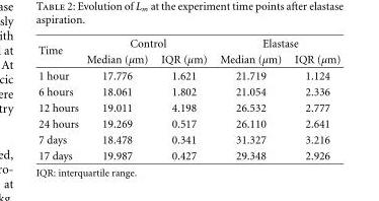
<table><thead><tr><td rowspan="2">Time</td><td colspan="2">Control</td><td colspan="2">Elastase</td></tr><tr><td>Median (μm)</td><td>IQR (μm)</td><td>Median (μm)</td><td>IQR (μm)</td></tr></thead><tbody><tr><td>1 hour</td><td>17.776</td><td>1.621</td><td>21.719</td><td>1.124</td></tr><tr><td>6 hours</td><td>18.061</td><td>1.802</td><td>21.054</td><td>2.336</td></tr><tr><td>12 hours</td><td>19.011</td><td>4.198</td><td>26.532</td><td>2.777</td></tr><tr><td>24 hours</td><td>19.269</td><td>0.517</td><td>26.110</td><td>2.641</td></tr><tr><td>7 days</td><td>18.478</td><td>0.341</td><td>31.327</td><td>3.216</td></tr><tr><td>17 days</td><td>19.987</td><td>0.427</td><td>29.348</td><td>2.926</td></tr></tbody></table>